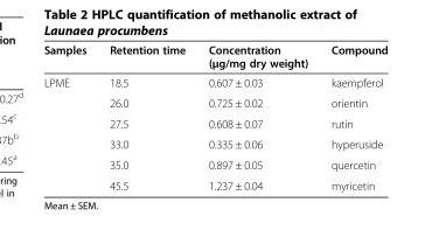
<table><thead><tr><td>Samples</td><td>Retention time</td><td>Concentration (μg/mg dry weight)</td><td>Compound</td></tr></thead><tbody><tr><td rowspan="6">LPME</td><td>18.5</td><td>0.607 ± 0.03</td><td>kaempferol</td></tr><tr><td>26.0</td><td>0.725 ± 0.02</td><td>orientin</td></tr><tr><td>27.5</td><td>0.608 ± 0.07</td><td>rutin</td></tr><tr><td>33.0</td><td>0.335 ± 0.06</td><td>hyperuside</td></tr><tr><td>35.0</td><td>0.897 ± 0.05</td><td>quercetin</td></tr><tr><td>45.5</td><td>1.237 ± 0.04</td><td>myricetin</td></tr></tbody></table>